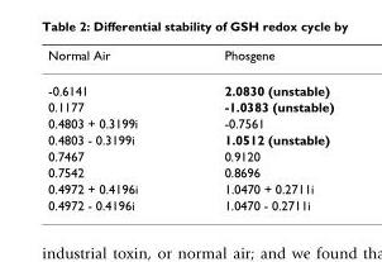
<table><thead><tr><td>Normal Air</td><td>Phosgene</td></tr></thead><tbody><tr><td>-0.6141</td><td>2.0830 (unstable)</td></tr><tr><td>0.1177</td><td>-1.0383 (unstable)</td></tr><tr><td>0.4803 + 0.3199i</td><td>-0.7561</td></tr><tr><td>0.4803 - 0.3199i</td><td>1.0512 (unstable)</td></tr><tr><td>0.7467</td><td>0.9120</td></tr><tr><td>0.7542</td><td>0.8696</td></tr><tr><td>0.4972 + 0.4196i</td><td>1.0470 + 0.2711i</td></tr><tr><td>0.4972 - 0.4196i</td><td>1.0470 - 0.2711i</td></tr></tbody></table>